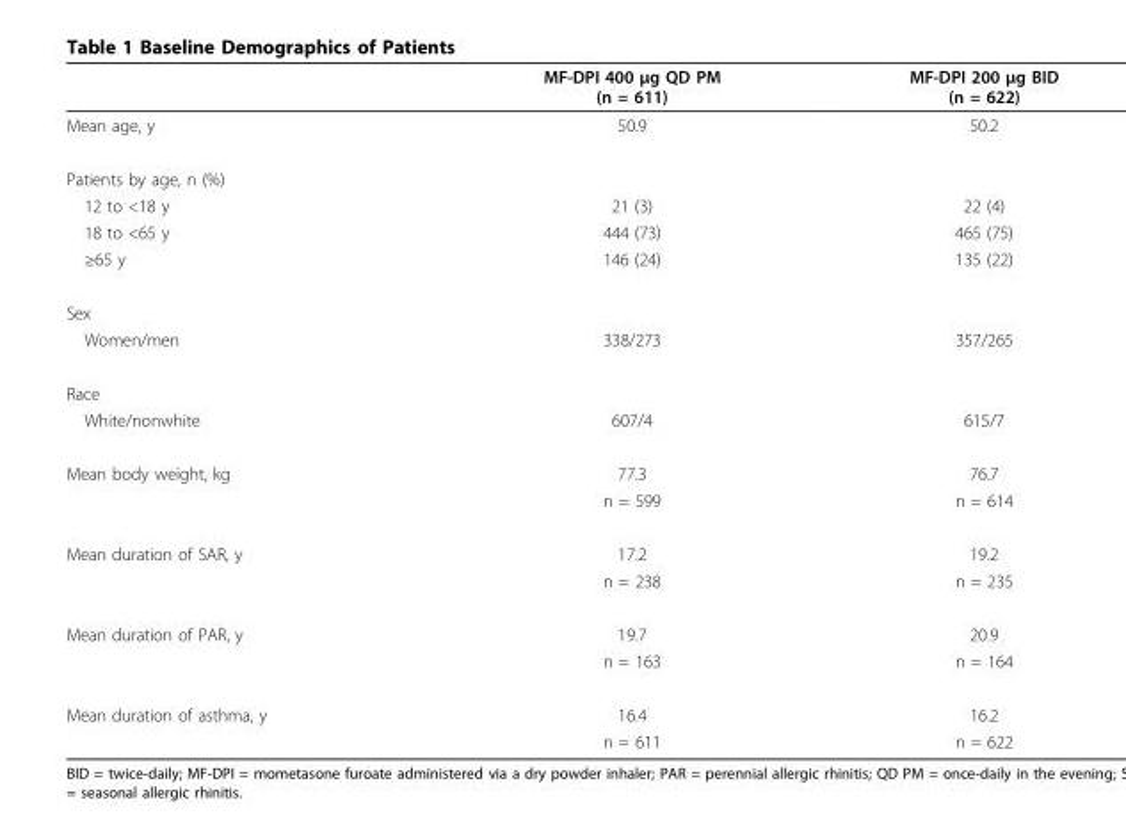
<table><thead><tr><td></td><td>MF-DPI 400 μg QD PM (n = 611)</td><td>MF-DPI 200 μg BID (n = 622)</td></tr></thead><tbody><tr><td>Mean age, y</td><td>50.9</td><td>50.2</td></tr><tr><td colspan="3">Patients by age, n (%)</td></tr><tr><td>12 to &lt;18 y</td><td>21 (3)</td><td>22 (4)</td></tr><tr><td>18 to &lt;65 y</td><td>444 (73)</td><td>465 (75)</td></tr><tr><td>≥65 y</td><td>146 (24)</td><td>135 (22)</td></tr><tr><td colspan="3">Sex</td></tr><tr><td>Women/men</td><td>338/273</td><td>357/265</td></tr><tr><td colspan="3">Race</td></tr><tr><td>White/nonwhite</td><td>607/4</td><td>615/7</td></tr><tr><td rowspan="2">Mean body weight, kg</td><td>77.3</td><td>76.7</td></tr><tr><td>n = 599</td><td>n = 614</td></tr><tr><td rowspan="2">Mean duration of SAR, y</td><td>17.2</td><td>19.2</td></tr><tr><td>n = 238</td><td>n = 235</td></tr><tr><td rowspan="2">Mean duration of PAR, y</td><td>19.7</td><td>20.9</td></tr><tr><td>n = 163</td><td>n = 164</td></tr><tr><td rowspan="2">Mean duration of asthma, y</td><td>16.4</td><td>16.2</td></tr><tr><td>n = 611</td><td>n = 622</td></tr></tbody></table>